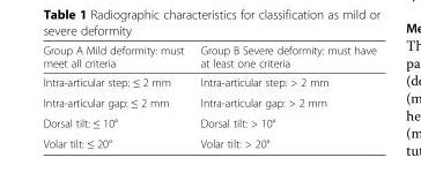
<table><thead><tr><td>Group A Mild deformity: must meet all criteria</td><td>Group B Severe deformity: must have at least one criteria</td></tr></thead><tbody><tr><td>Intra-articular step: ≤ 2 mm</td><td>Intra-articular step: &gt; 2 mm</td></tr><tr><td>Intra-articular gap: ≤ 2 mm</td><td>Intra-articular gap: &gt; 2 mm</td></tr><tr><td>Dorsal tilt: ≤ 10°</td><td>Dorsal tilt: &gt; 10°</td></tr><tr><td>Volar tilt: ≤ 20°</td><td>Volar tilt: &gt; 20°</td></tr></tbody></table>